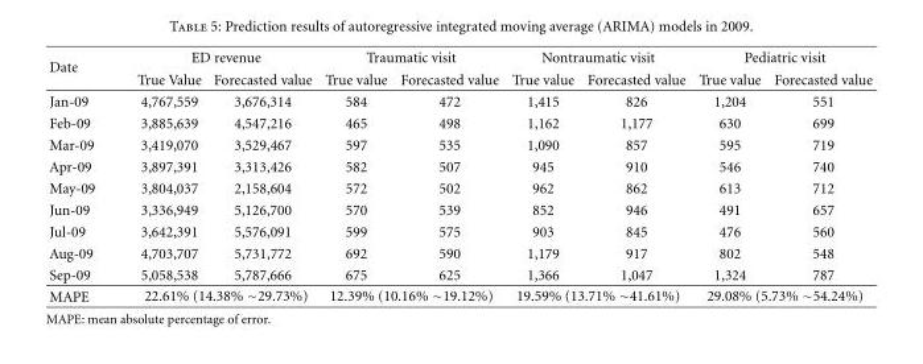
<table><thead><tr><td rowspan="2">Date</td><td colspan="2">ED revenue</td><td colspan="2">Traumatic visit</td><td colspan="2">Nontraumatic visit</td><td colspan="2">Pediatric visit</td></tr><tr><td>True Value</td><td>Forecasted value</td><td>True value</td><td>Forecasted value</td><td>True value</td><td>Forecasted value</td><td>True value</td><td>Forecasted value</td></tr></thead><tbody><tr><td>Jan-09</td><td>4,767,559</td><td>3,676,314</td><td>584</td><td>472</td><td>1,415</td><td>826</td><td>1,204</td><td>551</td></tr><tr><td>Feb-09</td><td>3,885,639</td><td>4,547,216</td><td>465</td><td>498</td><td>1,162</td><td>1,177</td><td>630</td><td>699</td></tr><tr><td>Mar-09</td><td>3,419,070</td><td>3,529,467</td><td>597</td><td>535</td><td>1,090</td><td>857</td><td>595</td><td>719</td></tr><tr><td>Apr-09</td><td>3,897,391</td><td>3,313,426</td><td>582</td><td>507</td><td>945</td><td>910</td><td>546</td><td>740</td></tr><tr><td>May-09</td><td>3,804,037</td><td>2,158,604</td><td>572</td><td>502</td><td>962</td><td>862</td><td>613</td><td>712</td></tr><tr><td>Jun-09</td><td>3,336,949</td><td>5,126,700</td><td>570</td><td>539</td><td>852</td><td>946</td><td>491</td><td>657</td></tr><tr><td>Jul-09</td><td>3,642,391</td><td>5,576,091</td><td>599</td><td>575</td><td>903</td><td>845</td><td>476</td><td>560</td></tr><tr><td>Aug-09</td><td>4,703,707</td><td>5,731,772</td><td>692</td><td>590</td><td>1,179</td><td>917</td><td>802</td><td>548</td></tr><tr><td>Sep-09</td><td>5,058,538</td><td>5,787,666</td><td>675</td><td>625</td><td>1,366</td><td>1,047</td><td>1,324</td><td>787</td></tr><tr><td>MAPE</td><td colspan="2">22.61% (14.38% ∼29.73%)</td><td colspan="2">12.39% (10.16% ∼19.12%)</td><td colspan="2">19.59% (13.71% ∼41.61%)</td><td colspan="2">29.08% (5.73% ∼54.24%)</td></tr></tbody></table>